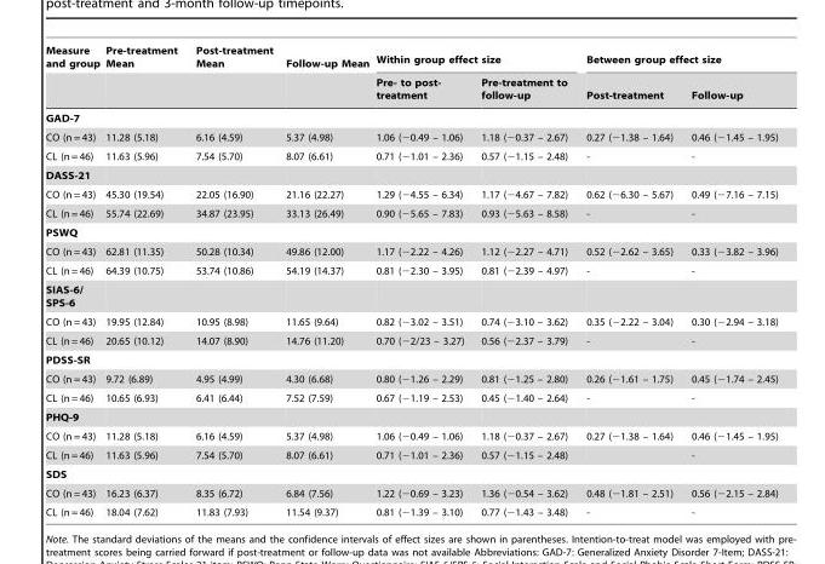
<table><thead><tr><td rowspan="2">Measure and group</td><td rowspan="2">Pre-treatment Mean</td><td rowspan="2">Post-treatment Mean</td><td rowspan="2">Follow-up Mean</td><td colspan="2">Within group effect size</td><td colspan="2">Between group effect size</td></tr><tr><td>Pre- to post- treatment</td><td>Pre-treatment to follow-up</td><td>Post-treatment</td><td>Follow-up</td></tr></thead><tbody><tr><td colspan="8">GAD-7</td></tr><tr><td>CO (n = 43)</td><td>11.28 (5.18)</td><td>6.16 (4.59)</td><td>5.37 (4.98)</td><td>1.06 (−0.49 – 1.06)</td><td>1.18 (−0.37 – 2.67)</td><td>0.27 (−1.38 – 1.64)</td><td>0.46 (−1.45 – 1.95)</td></tr><tr><td>CL (n = 46)</td><td>11.63 (5.96)</td><td>7.54 (5.70)</td><td>8.07 (6.61)</td><td>0.71 (−1.01 – 2.36)</td><td>0.57 (−1.15 – 2.48)</td><td>-</td><td>-</td></tr><tr><td colspan="8">DASS-21</td></tr><tr><td>CO (n = 43)</td><td>45.30 (19.54)</td><td>22.05 (16.90)</td><td>21.16 (22.27)</td><td>1.29 (−4.55 – 6.34)</td><td>1.17 (−4.67 – 7.82)</td><td>0.62 (−6.30 – 5.67)</td><td>0.49 (−7.16 – 7.15)</td></tr><tr><td>CL (n = 46)</td><td>55.74 (22.69)</td><td>34.87 (23.95)</td><td>33.13 (26.49)</td><td>0.90 (−5.65 – 7.83)</td><td>0.93 (−5.63 – 8.58)</td><td>-</td><td>-</td></tr><tr><td colspan="8">PSWQ</td></tr><tr><td>CO (n = 43)</td><td>62.81 (11.35)</td><td>50.28 (10.34)</td><td>49.86 (12.00)</td><td>1.17 (−2.22 – 4.26)</td><td>1.12 (−2.27 – 4.71)</td><td>0.52 (−2.62 – 3.65)</td><td>0.33 (−3.82 – 3.96)</td></tr><tr><td>CL (n = 46)</td><td>64.39 (10.75)</td><td>53.74 (10.86)</td><td>54.19 (14.37)</td><td>0.81 (−2.30 – 3.95)</td><td>0.81 (−2.39 – 4.97)</td><td>-</td><td>-</td></tr><tr><td colspan="8">SIAS-6/ SPS-6</td></tr><tr><td>CO (n = 43)</td><td>19.95 (12.84)</td><td>10.95 (8.98)</td><td>11.65 (9.64)</td><td>0.82 (−3.02 – 3.51)</td><td>0.74 (−3.10 – 3.62)</td><td>0.35 (−2.22 – 3.04)</td><td>0.30 (−2.94 – 3.18)</td></tr><tr><td>CL (n = 46)</td><td>20.65 (10.12)</td><td>14.07 (8.90)</td><td>14.76 (11.20)</td><td>0.70 (−2/23 – 3.27)</td><td>0.56 (−2.37 – 3.79)</td><td>-</td><td>-</td></tr><tr><td colspan="8">PDSS-SR</td></tr><tr><td>CO (n = 43)</td><td>9.72 (6.89)</td><td>4.95 (4.99)</td><td>4.30 (6.68)</td><td>0.80 (−1.26 – 2.29)</td><td>0.81 (−1.25 – 2.80)</td><td>0.26 (−1.61 – 1.75)</td><td>0.45 (−1.74 – 2.45)</td></tr><tr><td>CL (n = 46)</td><td>10.65 (6.93)</td><td>6.41 (6.44)</td><td>7.52 (7.59)</td><td>0.67 (−1.19 – 2.53)</td><td>0.45 (−1.40 – 2.64)</td><td>-</td><td>-</td></tr><tr><td colspan="8">PHQ-9</td></tr><tr><td>CO (n = 43)</td><td>11.28 (5.18)</td><td>6.16 (4.59)</td><td>5.37 (4.98)</td><td>1.06 (−0.49 – 1.06)</td><td>1.18 (−0.37 – 2.67)</td><td>0.27 (−1.38 – 1.64)</td><td>0.46 (−1.45 – 1.95)</td></tr><tr><td>CL (n = 46)</td><td>11.63 (5.96)</td><td>7.54 (5.70)</td><td>8.07 (6.61)</td><td>0.71 (−1.01 – 2.36)</td><td>0.57 (−1.15 – 2.48)</td><td></td><td>-</td></tr><tr><td colspan="8">SDS</td></tr><tr><td>CO (n = 43)</td><td>16.23 (6.37)</td><td>8.35 (6.72)</td><td>6.84 (7.56)</td><td>1.22 (−0.69 – 3.23)</td><td>1.36 (−0.54 – 3.62)</td><td>0.48 (−1.81 – 2.51)</td><td>0.56 (−2.15 – 2.84)</td></tr><tr><td>CL (n = 46)</td><td>18.04 (7.62)</td><td>11.83 (7.93)</td><td>11.54 (9.37)</td><td>0.81 (−1.39 – 3.10)</td><td>0.77 (−1.43 – 3.48)</td><td>-</td><td>-</td></tr></tbody></table>